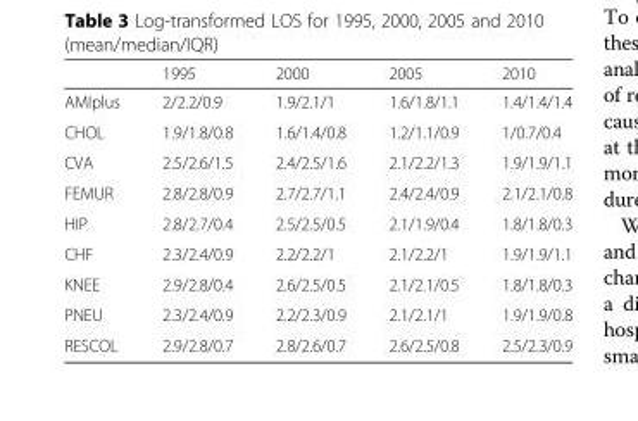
<table><thead><tr><td></td><td>1995</td><td>2000</td><td>2005</td><td>2010</td></tr></thead><tbody><tr><td>AMIplus</td><td>2/2.2/0.9</td><td>1.9/2.1/1</td><td>1.6/1.8/1.1</td><td>1.4/1.4/1.4</td></tr><tr><td>CHOL</td><td>1.9/1.8/0.8</td><td>1.6/1.4/0.8</td><td>1.2/1.1/0.9</td><td>1/0.7/0.4</td></tr><tr><td>CVA</td><td>2.5/2.6/1.5</td><td>2.4/2.5/1.6</td><td>2.1/2.2/1.3</td><td>1.9/1.9/1.1</td></tr><tr><td>FEMUR</td><td>2.8/2.8/0.9</td><td>2.7/2.7/1.1</td><td>2.4/2.4/0.9</td><td>2.1/2.1/0.8</td></tr><tr><td>HIP</td><td>2.8/2.7/0.4</td><td>2.5/2.5/0.5</td><td>2.1/1.9/0.4</td><td>1.8/1.8/0.3</td></tr><tr><td>CHF</td><td>2.3/2.4/0.9</td><td>2.2/2.2/1</td><td>2.1/2.2/1</td><td>1.9/1.9/1.1</td></tr><tr><td>KNEE</td><td>2.9/2.8/0.4</td><td>2.6/2.5/0.5</td><td>2.1/2.1/0.5</td><td>1.8/1.8/0.3</td></tr><tr><td>PNEU</td><td>2.3/2.4/0.9</td><td>2.2/2.3/0.9</td><td>2.1/2.1/1</td><td>1.9/1.9/0.8</td></tr><tr><td>RESCOL</td><td>2.9/2.8/0.7</td><td>2.8/2.6/0.7</td><td>2.6/2.5/0.8</td><td>2.5/2.3/0.9</td></tr></tbody></table>